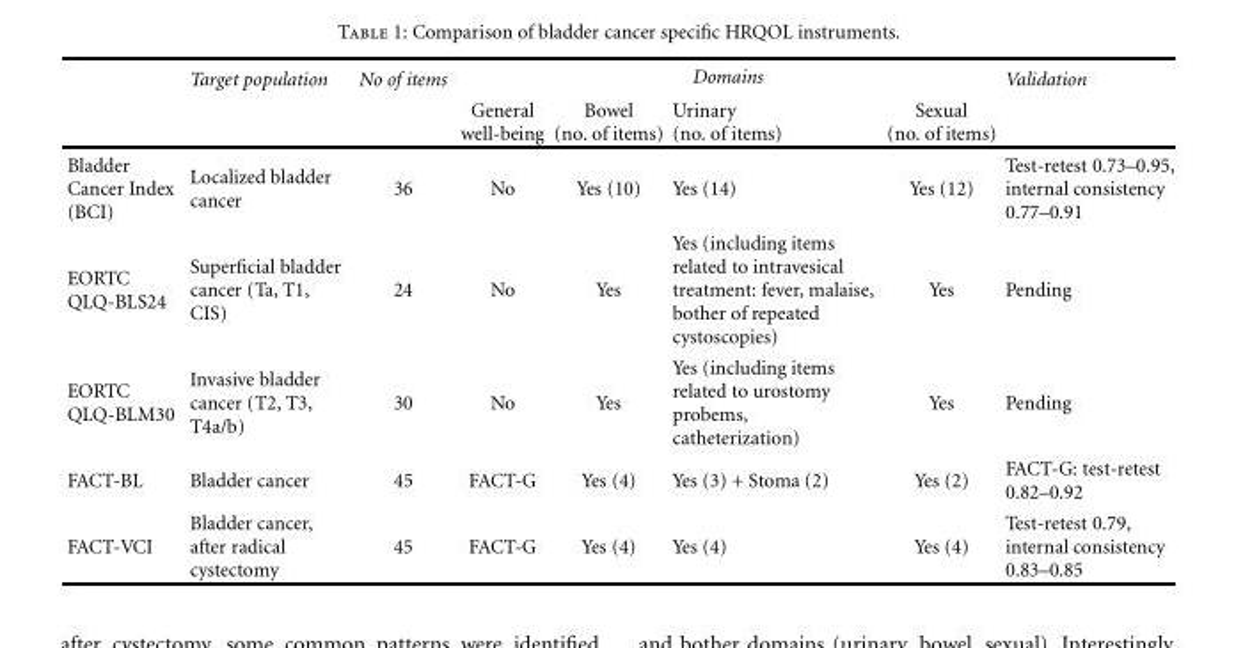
<table><thead><tr><td rowspan="2"></td><td rowspan="2">Target population</td><td rowspan="2">No of items</td><td colspan="4">Domains</td><td rowspan="2">Validation</td></tr><tr><td>General well-being</td><td>Bowel (no. of items)</td><td>Urinary (no. of items)</td><td>Sexual (no. of items)</td></tr></thead><tbody><tr><td>Bladder Cancer Index (BCI)</td><td>Localized bladder cancer</td><td>36</td><td>No</td><td>Yes (10)</td><td>Yes (14)</td><td>Yes (12)</td><td>Test-retest 0.73–0.95, internal consistency 0.77–0.91</td></tr><tr><td>EORTC QLQ-BLS24</td><td>Superficial bladder cancer (Ta, T1, CIS)</td><td>24</td><td>No</td><td>Yes</td><td>Yes (including items related to intravesical treatment: fever, malaise, bother of repeated cystoscopies)</td><td>Yes</td><td>Pending</td></tr><tr><td>EORTC QLQ-BLM30</td><td>Invasive bladder cancer (T2, T3, T4a/b)</td><td>30</td><td>No</td><td>Yes</td><td>Yes (including items related to urostomy probems, catheterization)</td><td>Yes</td><td>Pending</td></tr><tr><td>FACT-BL</td><td>Bladder cancer</td><td>45</td><td>FACT-G</td><td>Yes (4)</td><td>Yes (3) + Stoma (2)</td><td>Yes (2)</td><td>FACT-G: test-retest 0.82–0.92</td></tr><tr><td>FACT-VCI</td><td>Bladder cancer, after radical cystectomy</td><td>45</td><td>FACT-G</td><td>Yes (4)</td><td>Yes (4)</td><td>Yes (4)</td><td>Test-retest 0.79, internal consistency 0.83–0.85</td></tr></tbody></table>